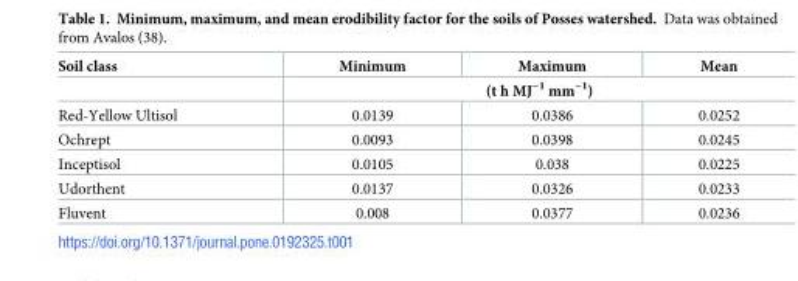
<table><thead><tr><td rowspan="2">Soil class</td><td>Minimum</td><td>Maximum</td><td>Mean</td></tr><tr><td colspan="3">(t h MJ<sup>−1</sup> mm<sup>−1</sup>)</td></tr></thead><tbody><tr><td>Red-Yellow Ultisol</td><td>0.0139</td><td>0.0386</td><td>0.0252</td></tr><tr><td>Ochrept</td><td>0.0093</td><td>0.0398</td><td>0.0245</td></tr><tr><td>Inceptisol</td><td>0.0105</td><td>0.038</td><td>0.0225</td></tr><tr><td>Udorthent</td><td>0.0137</td><td>0.0326</td><td>0.0233</td></tr><tr><td>Fluvent</td><td>0.008</td><td>0.0377</td><td>0.0236</td></tr></tbody></table>